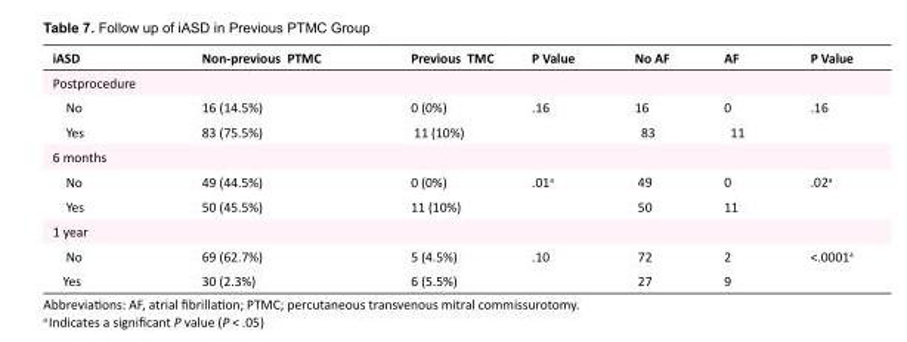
<table><tbody><tr><td>iASD</td><td>Non-previous PTMC</td><td>Previous TMC</td><td>P Value</td><td>No AF</td><td>AF</td><td>P Value</td></tr><tr><td colspan="7">Postprocedure</td></tr><tr><td>No</td><td>16 (14.5%)</td><td>0 (0%)</td><td>.16</td><td>16</td><td>0</td><td>.16</td></tr><tr><td>Yes</td><td>83 (75.5%)</td><td>11 (10%)</td><td></td><td>83</td><td>11</td><td></td></tr><tr><td colspan="7">6 months</td></tr><tr><td>No</td><td>49 (44.5%)</td><td>0 (0%)</td><td>.01<sup>a</sup></td><td>49</td><td>0</td><td>.02<sup>a</sup></td></tr><tr><td>Yes</td><td>50 (45.5%)</td><td>11 (10%)</td><td></td><td>50</td><td>11</td><td></td></tr><tr><td colspan="7">1 year</td></tr><tr><td>No</td><td>69 (62.7%)</td><td>5 (4.5%)</td><td>.10</td><td>72</td><td>2</td><td>&lt;.0001<sup>a</sup></td></tr><tr><td>Yes</td><td>30 (2.3%)</td><td>6 (5.5%)</td><td></td><td>27</td><td>9</td><td></td></tr></tbody></table>